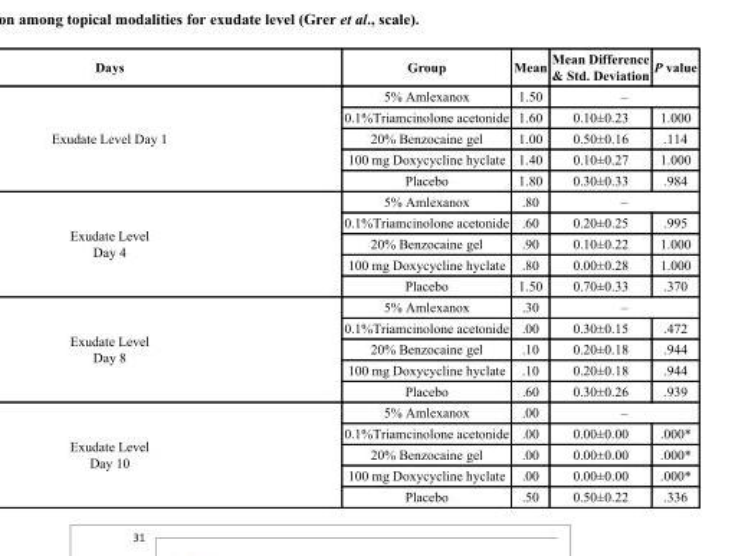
<table><thead><tr><td>Days</td><td>Group</td><td>Mean</td><td>Mean Difference &amp; Std. Deviation</td><td>P value</td></tr></thead><tbody><tr><td rowspan="5">Exudate Level Day 1</td><td>5% Amlexanox</td><td>1.50</td><td colspan="2">–</td></tr><tr><td>0.1%Triamcinolone acetonide</td><td>1.60</td><td>0.10±0.23</td><td>1.000</td></tr><tr><td>20% Benzocaine gel</td><td>1.00</td><td>0.50±0.16</td><td>.114</td></tr><tr><td>100 mg Doxycycline hyclate</td><td>1.40</td><td>0.10±0.27</td><td>1.000</td></tr><tr><td>Placebo</td><td>1.80</td><td>0.30±0.33</td><td>.984</td></tr><tr><td rowspan="5">Exudate Level Day 4</td><td>5% Amlexanox</td><td>.80</td><td colspan="2">–</td></tr><tr><td>0.1%Triamcinolone acetonide</td><td>.60</td><td>0.20±0.25</td><td>.995</td></tr><tr><td>20% Benzocaine gel</td><td>.90</td><td>0.10±0.22</td><td>1.000</td></tr><tr><td>100 mg Doxycycline hyclate</td><td>.80</td><td>0.00±0.28</td><td>1.000</td></tr><tr><td>Placebo</td><td>1.50</td><td>0.70±0.33</td><td>.370</td></tr><tr><td rowspan="5">Exudate Level Day 8</td><td>5% Amlexanox</td><td>.30</td><td colspan="2">–</td></tr><tr><td>0.1%Triamcinolone acetonide</td><td>.00</td><td>0.30±0.15</td><td>.472</td></tr><tr><td>20% Benzocaine gel</td><td>.10</td><td>0.20±0.18</td><td>.944</td></tr><tr><td>100 mg Doxycycline hyclate</td><td>.10</td><td>0.20±0.18</td><td>.944</td></tr><tr><td>Placebo</td><td>.60</td><td>0.30±0.26</td><td>.939</td></tr><tr><td rowspan="5">Exudate Level Day 10</td><td>5% Amlexanox</td><td>.00</td><td colspan="2">–</td></tr><tr><td>0.1%Triamcinolone acetonide</td><td>.00</td><td>0.00±0.00</td><td>.000*</td></tr><tr><td>20% Benzocaine gel</td><td>.00</td><td>0.00±0.00</td><td>.000*</td></tr><tr><td>100 mg Doxycycline hyclate</td><td>.00</td><td>0.00±0.00</td><td>.000*</td></tr><tr><td>Placebo</td><td>.50</td><td>0.50±0.22</td><td>.336</td></tr></tbody></table>